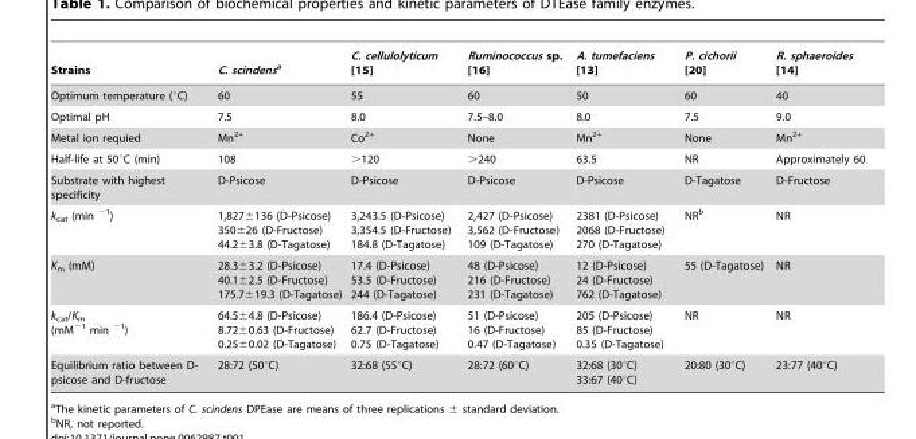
<table><thead><tr><td>Strains</td><td>C. scindensa</td><td>C. cellulolyticum [15]</td><td>Ruminococcus sp. [16]</td><td>A. tumefaciens [13]</td><td>P. cichorii [20]</td><td>R. sphaeroides [14]</td></tr></thead><tbody><tr><td>Optimum temperature (°C)</td><td>60</td><td>55</td><td>60</td><td>50</td><td>60</td><td>40</td></tr><tr><td>Optimal pH</td><td>7.5</td><td>8.0</td><td>7.5–8.0</td><td>8.0</td><td>7.5</td><td>9.0</td></tr><tr><td>Metal ion requied</td><td>Mn<sup>2+</sup></td><td>Co<sup>2+</sup></td><td>None</td><td>Mn<sup>2+</sup></td><td>None</td><td>Mn<sup>2+</sup></td></tr><tr><td>Half-life at 50°C (min)</td><td>108</td><td>&gt;120</td><td>&gt;240</td><td>63.5</td><td>NR</td><td>Approximately 60</td></tr><tr><td>Substrate with highest specificity</td><td>D-Psicose</td><td>D-Psicose</td><td>D-Psicose</td><td>D-Psicose</td><td>D-Tagatose</td><td>D-Fructose</td></tr><tr><td>k<sub>cat</sub> (min <sup>−1</sup>)</td><td>1,827±136 (D-Psicose) 350±26 (D-Fructose) 44.2±3.8 (D-Tagatose)</td><td>3,243.5 (D-Psicose) 3,354.5 (D-Fructose) 184.8 (D-Tagatose)</td><td>2,427 (D-Psicose) 3,562 (D-Fructose) 109 (D-Tagatose)</td><td>2381 (D-Psicose) 2068 (D-Fructose) 270 (D-Tagatose)</td><td>NR<sup>b</sup></td><td>NR</td></tr><tr><td>K<sub>m</sub> (mM)</td><td>28.3±3.2 (D-Psicose) 40.1±2.5 (D-Fructose) 175.7±19.3 (D-Tagatose)</td><td>17.4 (D-Psicose) 53.5 (D-Fructose) 244 (D-Tagatose)</td><td>48 (D-Psicose) 216 (D-Fructose) 231 (D-Tagatose)</td><td>12 (D-Psicose) 24 (D-Fructose) 762 (D-Tagatose)</td><td>55 (D-Tagatose)</td><td>NR</td></tr><tr><td>k<sub>cat</sub>/K<sub>m</sub> (mM<sup>−1</sup> min <sup>−1</sup>)</td><td>64.5±4.8 (D-Psicose) 8.72±0.63 (D-Fructose) 0.25±0.02 (D-Tagatose)</td><td>186.4 (D-Psicose) 62.7 (D-Fructose) 0.75 (D-Tagatose)</td><td>51 (D-Psicose) 16 (D-Fructose) 0.47 (D-Tagatose)</td><td>205 (D-Psicose) 85 (D-Fructose) 0.35 (D-Tagatose)</td><td>NR</td><td>NR</td></tr><tr><td>Equilibrium ratio between D- psicose and D-fructose</td><td>28:72 (50°C)</td><td>32:68 (55°C)</td><td>28:72 (60°C)</td><td>32:68 (30°C) 33:67 (40°C)</td><td>20:80 (30°C)</td><td>23:77 (40°C)</td></tr></tbody></table>